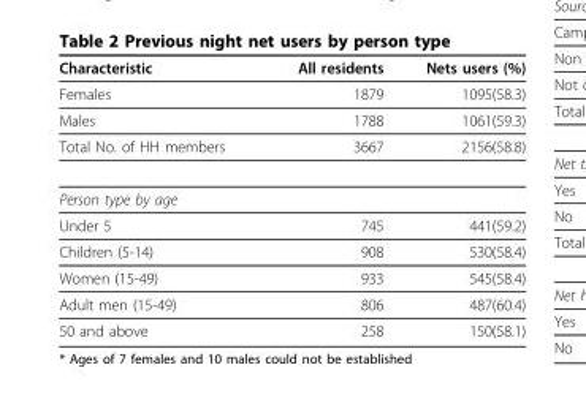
<table><thead><tr><td>Characteristic</td><td>All residents</td><td>Nets users (%)</td></tr></thead><tbody><tr><td>Females</td><td>1879</td><td>1095(58.3)</td></tr><tr><td>Males</td><td>1788</td><td>1061(59.3)</td></tr><tr><td>Total No. of HH members</td><td>3667</td><td>2156(58.8)</td></tr><tr><td colspan="3">Person type by age</td></tr><tr><td>Under 5</td><td>745</td><td>441(59.2)</td></tr><tr><td>Children (5-14)</td><td>908</td><td>530(58.4)</td></tr><tr><td>Women (15-49)</td><td>933</td><td>545(58.4)</td></tr><tr><td>Adult men (15-49)</td><td>806</td><td>487(60.4)</td></tr><tr><td>50 and above</td><td>258</td><td>150(58.1)</td></tr></tbody></table>